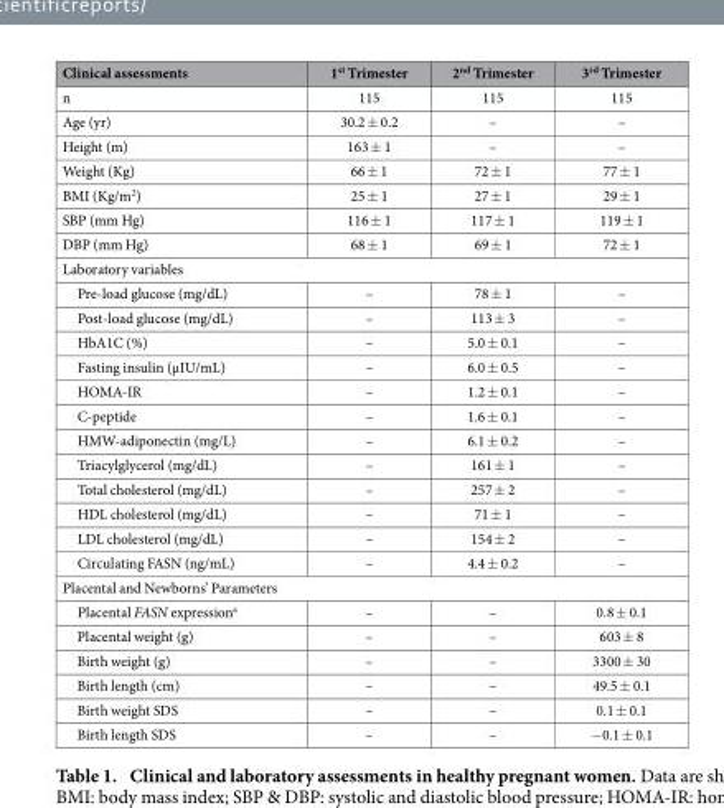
<table><thead><tr><td>Clinical assessments</td><td>1<sup>st</sup> Trimester</td><td>2<sup>nd</sup> Trimester</td><td>3<sup>rd</sup> Trimester</td></tr></thead><tbody><tr><td>n</td><td>115</td><td>115</td><td>115</td></tr><tr><td>Age (yr)</td><td>30.2 ± 0.2</td><td>–</td><td>–</td></tr><tr><td>Height (m)</td><td>163 ± 1</td><td>–</td><td>–</td></tr><tr><td>Weight (Kg)</td><td>66 ± 1</td><td>72 ± 1</td><td>77 ± 1</td></tr><tr><td>BMI (Kg/m<sup>2</sup>)</td><td>25 ± 1</td><td>27 ± 1</td><td>29 ± 1</td></tr><tr><td>SBP (mm Hg)</td><td>116 ± 1</td><td>117 ± 1</td><td>119 ± 1</td></tr><tr><td>DBP (mm Hg)</td><td>68 ± 1</td><td>69 ± 1</td><td>72 ± 1</td></tr><tr><td colspan="4">Laboratory variables</td></tr><tr><td>Pre-load glucose (mg/dL)</td><td>–</td><td>78 ± 1</td><td>–</td></tr><tr><td>Post-load glucose (mg/dL)</td><td>–</td><td>113 ± 3</td><td>–</td></tr><tr><td>HbA1C (%)</td><td>–</td><td>5.0 ± 0.1</td><td>–</td></tr><tr><td>Fasting insulin (μIU/mL)</td><td>–</td><td>6.0 ± 0.5</td><td>–</td></tr><tr><td>HOMA-IR</td><td>–</td><td>1.2 ± 0.1</td><td>–</td></tr><tr><td>C-peptide</td><td>–</td><td>1.6 ± 0.1</td><td>–</td></tr><tr><td>HMW-adiponectin (mg/L)</td><td>–</td><td>6.1 ± 0.2</td><td>–</td></tr><tr><td>Triacylglycerol (mg/dL)</td><td>–</td><td>161 ± 1</td><td>–</td></tr><tr><td>Total cholesterol (mg/dL)</td><td>–</td><td>257 ± 2</td><td>–</td></tr><tr><td>HDL cholesterol (mg/dL)</td><td>–</td><td>71 ± 1</td><td>–</td></tr><tr><td>LDL cholesterol (mg/dL)</td><td>–</td><td>154 ± 2</td><td>–</td></tr><tr><td>Circulating FASN (ng/mL)</td><td>–</td><td>4.4 ± 0.2</td><td>–</td></tr><tr><td colspan="4">Placental and Newborns’ Parameters</td></tr><tr><td>Placental FASN expression<sup>a</sup></td><td>–</td><td>–</td><td>0.8 ± 0.1</td></tr><tr><td>Placental weight (g)</td><td>–</td><td>–</td><td>603 ± 8</td></tr><tr><td>Birth weight (g)</td><td>–</td><td>–</td><td>3300 ± 30</td></tr><tr><td>Birth length (cm)</td><td>–</td><td>–</td><td>49.5 ± 0.1</td></tr><tr><td>Birth weight SDS</td><td>–</td><td>–</td><td>0.1 ± 0.1</td></tr><tr><td>Birth length SDS</td><td>–</td><td>–</td><td>− 0.1 ± 0.1</td></tr></tbody></table>